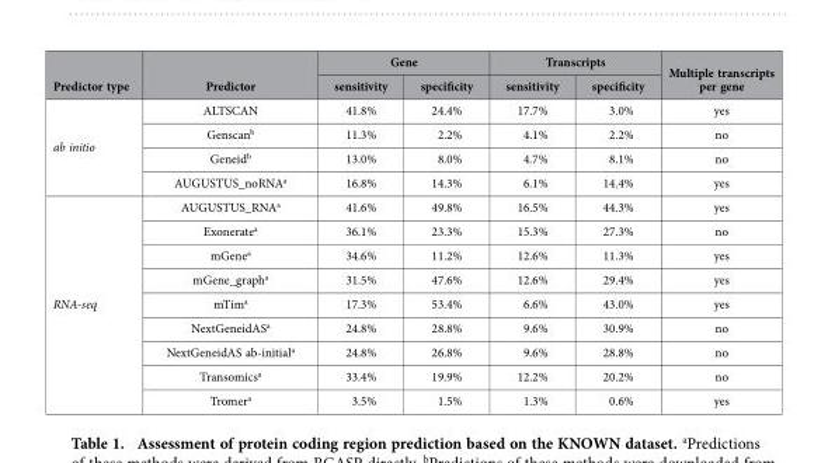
<table><thead><tr><td rowspan="2">Predictor type</td><td rowspan="2">Predictor</td><td colspan="2">Gene</td><td colspan="2">Transcripts</td><td rowspan="2">Multiple transcripts per gene</td></tr><tr><td>sensitivity</td><td>specificity</td><td>sensitivity</td><td>specificity</td></tr></thead><tbody><tr><td rowspan="4">ab initio</td><td>ALTSCAN</td><td>41.8%</td><td>24.4%</td><td>17.7%</td><td>3.0%</td><td>yes</td></tr><tr><td>Genscan<sup>b</sup></td><td>11.3%</td><td>2.2%</td><td>4.1%</td><td>2.2%</td><td>no</td></tr><tr><td>Geneid<sup>b</sup></td><td>13.0%</td><td>8.0%</td><td>4.7%</td><td>8.1%</td><td>no</td></tr><tr><td>AUGUSTUS_noRNA<sup>a</sup></td><td>16.8%</td><td>14.3%</td><td>6.1%</td><td>14.4%</td><td>yes</td></tr><tr><td rowspan="9">RNA-seq</td><td>AUGUSTUS_RNA<sup>a</sup></td><td>41.6%</td><td>49.8%</td><td>16.5%</td><td>44.3%</td><td>yes</td></tr><tr><td>Exonerate<sup>a</sup></td><td>36.1%</td><td>23.3%</td><td>15.3%</td><td>27.3%</td><td>no</td></tr><tr><td>mGene<sup>a</sup></td><td>34.6%</td><td>11.2%</td><td>12.6%</td><td>11.3%</td><td>yes</td></tr><tr><td>mGene_graph<sup>a</sup></td><td>31.5%</td><td>47.6%</td><td>12.6%</td><td>29.4%</td><td>yes</td></tr><tr><td>mTim<sup>a</sup></td><td>17.3%</td><td>53.4%</td><td>6.6%</td><td>43.0%</td><td>yes</td></tr><tr><td>NextGeneidAS<sup>a</sup></td><td>24.8%</td><td>28.8%</td><td>9.6%</td><td>30.9%</td><td>no</td></tr><tr><td>NextGeneidAS ab-initial<sup>a</sup></td><td>24.8%</td><td>26.8%</td><td>9.6%</td><td>28.8%</td><td>no</td></tr><tr><td>Transomics<sup>a</sup></td><td>33.4%</td><td>19.9%</td><td>12.2%</td><td>20.2%</td><td>no</td></tr><tr><td>Tromer<sup>a</sup></td><td>3.5%</td><td>1.5%</td><td>1.3%</td><td>0.6%</td><td>yes</td></tr></tbody></table>